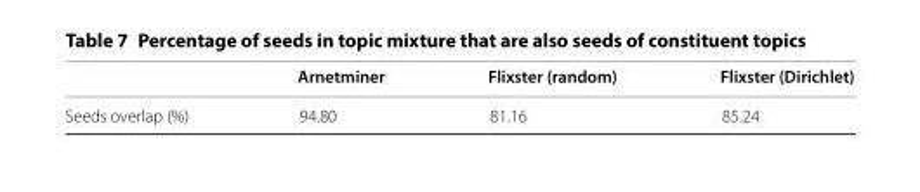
<table><thead><tr><td></td><td>Arnetminer</td><td>Flixster (random)</td><td>Flixster (Dirichlet)</td></tr></thead><tbody><tr><td>Seeds overlap (%)</td><td>94.80</td><td>81.16</td><td>85.24</td></tr></tbody></table>